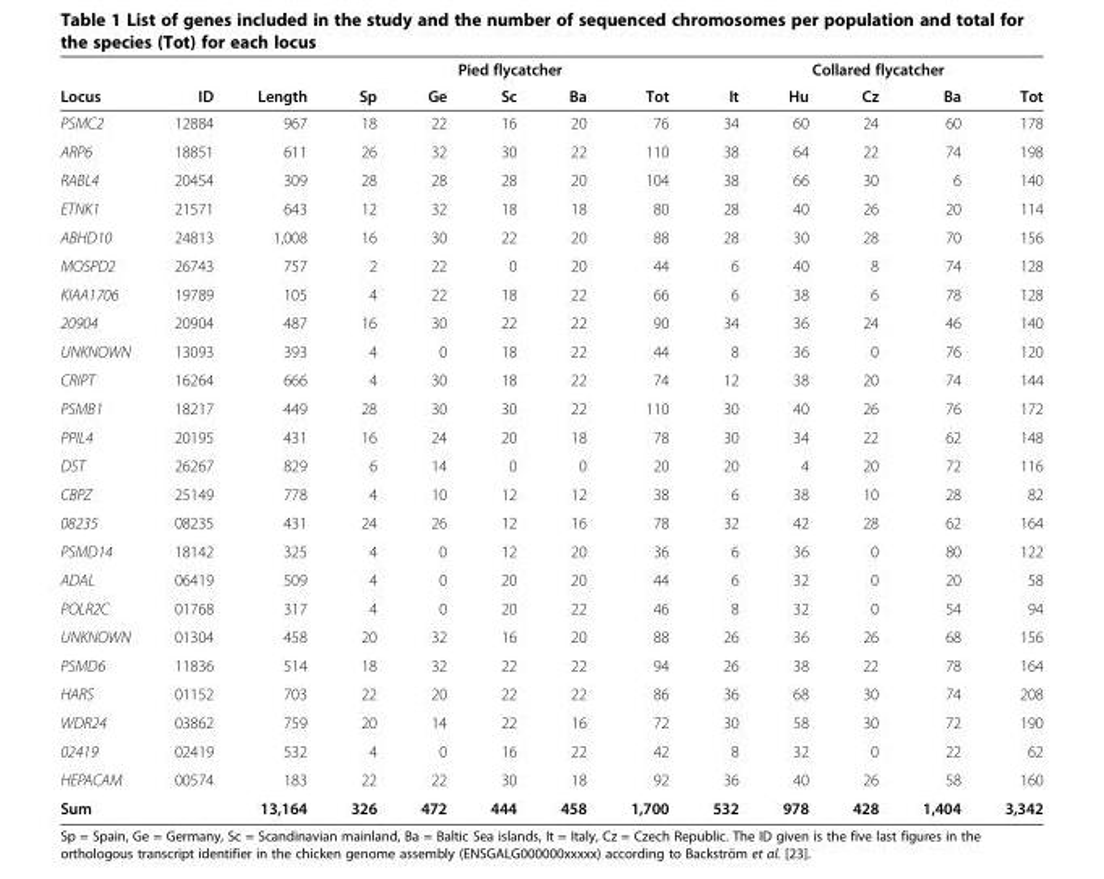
<table><thead><tr><td rowspan="2">Locus</td><td rowspan="2">ID</td><td rowspan="2">Length</td><td colspan="5">Pied flycatcher</td><td colspan="5">Collared flycatcher</td></tr><tr><td>Sp</td><td>Ge</td><td>Sc</td><td>Ba</td><td>Tot</td><td>It</td><td>Hu</td><td>Cz</td><td>Ba</td><td>Tot</td></tr></thead><tbody><tr><td>PSMC2</td><td>12884</td><td>967</td><td>18</td><td>22</td><td>16</td><td>20</td><td>76</td><td>34</td><td>60</td><td>24</td><td>60</td><td>178</td></tr><tr><td>ARP6</td><td>18851</td><td>611</td><td>26</td><td>32</td><td>30</td><td>22</td><td>110</td><td>38</td><td>64</td><td>22</td><td>74</td><td>198</td></tr><tr><td>RABL4</td><td>20454</td><td>309</td><td>28</td><td>28</td><td>28</td><td>20</td><td>104</td><td>38</td><td>66</td><td>30</td><td>6</td><td>140</td></tr><tr><td>ETNK1</td><td>21571</td><td>643</td><td>12</td><td>32</td><td>18</td><td>18</td><td>80</td><td>28</td><td>40</td><td>26</td><td>20</td><td>114</td></tr><tr><td>ABHD10</td><td>24813</td><td>1,008</td><td>16</td><td>30</td><td>22</td><td>20</td><td>88</td><td>28</td><td>30</td><td>28</td><td>70</td><td>156</td></tr><tr><td>MOSPD2</td><td>26743</td><td>757</td><td>2</td><td>22</td><td>0</td><td>20</td><td>44</td><td>6</td><td>40</td><td>8</td><td>74</td><td>128</td></tr><tr><td>KIAA1706</td><td>19789</td><td>105</td><td>4</td><td>22</td><td>18</td><td>22</td><td>66</td><td>6</td><td>38</td><td>6</td><td>78</td><td>128</td></tr><tr><td>20904</td><td>20904</td><td>487</td><td>16</td><td>30</td><td>22</td><td>22</td><td>90</td><td>34</td><td>36</td><td>24</td><td>46</td><td>140</td></tr><tr><td>UNKNOWN</td><td>13093</td><td>393</td><td>4</td><td>0</td><td>18</td><td>22</td><td>44</td><td>8</td><td>36</td><td>0</td><td>76</td><td>120</td></tr><tr><td>CRIPT</td><td>16264</td><td>666</td><td>4</td><td>30</td><td>18</td><td>22</td><td>74</td><td>12</td><td>38</td><td>20</td><td>74</td><td>144</td></tr><tr><td>PSMB1</td><td>18217</td><td>449</td><td>28</td><td>30</td><td>30</td><td>22</td><td>110</td><td>30</td><td>40</td><td>26</td><td>76</td><td>172</td></tr><tr><td>PPIL4</td><td>20195</td><td>431</td><td>16</td><td>24</td><td>20</td><td>18</td><td>78</td><td>30</td><td>34</td><td>22</td><td>62</td><td>148</td></tr><tr><td>DST</td><td>26267</td><td>829</td><td>6</td><td>14</td><td>0</td><td>0</td><td>20</td><td>20</td><td>4</td><td>20</td><td>72</td><td>116</td></tr><tr><td>CBPZ</td><td>25149</td><td>778</td><td>4</td><td>10</td><td>12</td><td>12</td><td>38</td><td>6</td><td>38</td><td>10</td><td>28</td><td>82</td></tr><tr><td>08235</td><td>08235</td><td>431</td><td>24</td><td>26</td><td>12</td><td>16</td><td>78</td><td>32</td><td>42</td><td>28</td><td>62</td><td>164</td></tr><tr><td>PSMD14</td><td>18142</td><td>325</td><td>4</td><td>0</td><td>12</td><td>20</td><td>36</td><td>6</td><td>36</td><td>0</td><td>80</td><td>122</td></tr><tr><td>ADAL</td><td>06419</td><td>509</td><td>4</td><td>0</td><td>20</td><td>20</td><td>44</td><td>6</td><td>32</td><td>0</td><td>20</td><td>58</td></tr><tr><td>POLR2C</td><td>01768</td><td>317</td><td>4</td><td>0</td><td>20</td><td>22</td><td>46</td><td>8</td><td>32</td><td>0</td><td>54</td><td>94</td></tr><tr><td>UNKNOWN</td><td>01304</td><td>458</td><td>20</td><td>32</td><td>16</td><td>20</td><td>88</td><td>26</td><td>36</td><td>26</td><td>68</td><td>156</td></tr><tr><td>PSMD6</td><td>11836</td><td>514</td><td>18</td><td>32</td><td>22</td><td>22</td><td>94</td><td>26</td><td>38</td><td>22</td><td>78</td><td>164</td></tr><tr><td>HARS</td><td>01152</td><td>703</td><td>22</td><td>20</td><td>22</td><td>22</td><td>86</td><td>36</td><td>68</td><td>30</td><td>74</td><td>208</td></tr><tr><td>WDR24</td><td>03862</td><td>759</td><td>20</td><td>14</td><td>22</td><td>16</td><td>72</td><td>30</td><td>58</td><td>30</td><td>72</td><td>190</td></tr><tr><td>02419</td><td>02419</td><td>532</td><td>4</td><td>0</td><td>16</td><td>22</td><td>42</td><td>8</td><td>32</td><td>0</td><td>22</td><td>62</td></tr><tr><td>HEPACAM</td><td>00574</td><td>183</td><td>22</td><td>22</td><td>30</td><td>18</td><td>92</td><td>36</td><td>40</td><td>26</td><td>58</td><td>160</td></tr><tr><td>Sum</td><td></td><td>13,164</td><td>326</td><td>472</td><td>444</td><td>458</td><td>1,700</td><td>532</td><td>978</td><td>428</td><td>1,404</td><td>3,342</td></tr></tbody></table>